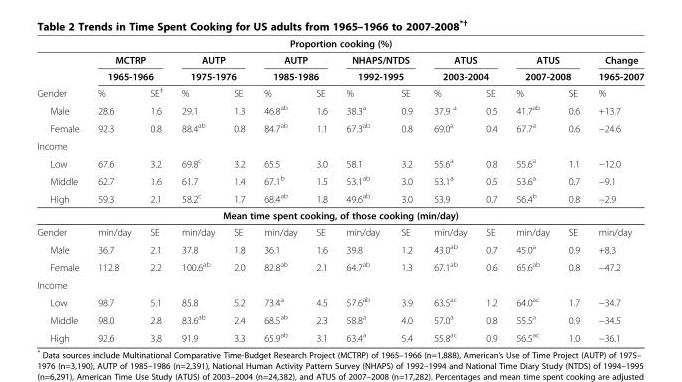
<table><thead><tr><td colspan="14">Proportion cooking (%)</td></tr><tr><td rowspan="3">Gender</td><td rowspan="2" colspan="2">MCTRP 1965-1966</td><td rowspan="2" colspan="2">AUTP 1975-1976</td><td rowspan="2" colspan="2">AUTP 1985-1986</td><td rowspan="2" colspan="2">NHAPS/NTDS 1992-1995</td><td rowspan="2" colspan="2">ATUS 2003-2004</td><td rowspan="2" colspan="2">ATUS 2007-2008</td><td rowspan="3">Change 1965-2007 %</td></tr><tr></tr><tr><td>%</td><td>SE<sup>‡</sup></td><td>%</td><td>SE</td><td>%</td><td>SE</td><td>%</td><td>SE</td><td>%</td><td>SE</td><td>%</td><td>SE</td></tr></thead><tbody><tr><td>Male</td><td>28.6</td><td>1.6</td><td>29.1</td><td>1.3</td><td>46.8<sup>ab</sup></td><td>1.6</td><td>38.3<sup>a</sup></td><td>0.9</td><td>37.9 <sup>a</sup></td><td>0.5</td><td>41.7<sup>ab</sup></td><td>0.6</td><td>+13.7</td></tr><tr><td>Female</td><td>92.3</td><td>0.8</td><td>88.4<sup>ab</sup></td><td>0.8</td><td>84.7<sup>ab</sup></td><td>1.1</td><td>67.3<sup>ab</sup></td><td>0.8</td><td>69.0<sup>a</sup></td><td>0.4</td><td>67.7<sup>a</sup></td><td>0.6</td><td>−24.6</td></tr><tr><td colspan="14">Income</td></tr><tr><td>Low</td><td>67.6</td><td>3.2</td><td>69.8<sup>c</sup></td><td>3.2</td><td>65.5</td><td>3.0</td><td>58.1</td><td>3.2</td><td>55.6<sup>a</sup></td><td>0.8</td><td>55.6<sup>a</sup></td><td>1.1</td><td>−12.0</td></tr><tr><td>Middle</td><td>62.7</td><td>1.6</td><td>61.7</td><td>1.4</td><td>67.1<sup>b</sup></td><td>1.5</td><td>53.1<sup>ab</sup></td><td>3.0</td><td>53.1<sup>a</sup></td><td>0.5</td><td>53.6<sup>a</sup></td><td>0.7</td><td>−9.1</td></tr><tr><td>High</td><td>59.3</td><td>2.1</td><td>58.2<sup>c</sup></td><td>1.7</td><td>68.4<sup>ab</sup></td><td>1.8</td><td>49.6<sup>ab</sup></td><td>3.0</td><td>53.9</td><td>0.7</td><td>56.4<sup>b</sup></td><td>0.8</td><td>−2.9</td></tr><tr><td colspan="14">Mean time spent cooking, of those cooking (min/day)</td></tr><tr><td>Gender</td><td>min/day</td><td>SE</td><td>min/day</td><td>SE</td><td>min/day</td><td>SE</td><td>min/day</td><td>SE</td><td>min/day</td><td>SE</td><td>min/day</td><td>SE</td><td>min/day</td></tr><tr><td>Male</td><td>36.7</td><td>2.1</td><td>37.8</td><td>1.8</td><td>36.1</td><td>1.6</td><td>39.8</td><td>1.2</td><td>43.0<sup>ab</sup></td><td>0.7</td><td>45.0<sup>a</sup></td><td>0.9</td><td>+8.3</td></tr><tr><td>Female</td><td>112.8</td><td>2.2</td><td>100.6<sup>ab</sup></td><td>2.0</td><td>82.8<sup>ab</sup></td><td>2.1</td><td>64.7<sup>ab</sup></td><td>1.3</td><td>67.1<sup>ab</sup></td><td>0.6</td><td>65.6<sup>ab</sup></td><td>0.8</td><td>−47.2</td></tr><tr><td colspan="14">Income</td></tr><tr><td>Low</td><td>98.7</td><td>5.1</td><td>85.8</td><td>5.2</td><td>73.4<sup>a</sup></td><td>4.5</td><td>57.6<sup>ab</sup></td><td>3.9</td><td>63.5<sup>ac</sup></td><td>1.2</td><td>64.0<sup>ac</sup></td><td>1.7</td><td>−34.7</td></tr><tr><td>Middle</td><td>98.0</td><td>2.8</td><td>83.6<sup>ab</sup></td><td>2.4</td><td>68.5<sup>ab</sup></td><td>2.3</td><td>58.8<sup>a</sup></td><td>4.0</td><td>57.0<sup>a</sup></td><td>0.8</td><td>55.5<sup>a</sup></td><td>0.9</td><td>−34.5</td></tr><tr><td>High</td><td>92.6</td><td>3.8</td><td>91.9</td><td>3.3</td><td>65.9<sup>ab</sup></td><td>3.1</td><td>63.4<sup>a</sup></td><td>5.4</td><td>55.8<sup>ac</sup></td><td>0.9</td><td>56.5<sup>ac</sup></td><td>1.0</td><td>−36.1</td></tr></tbody></table>